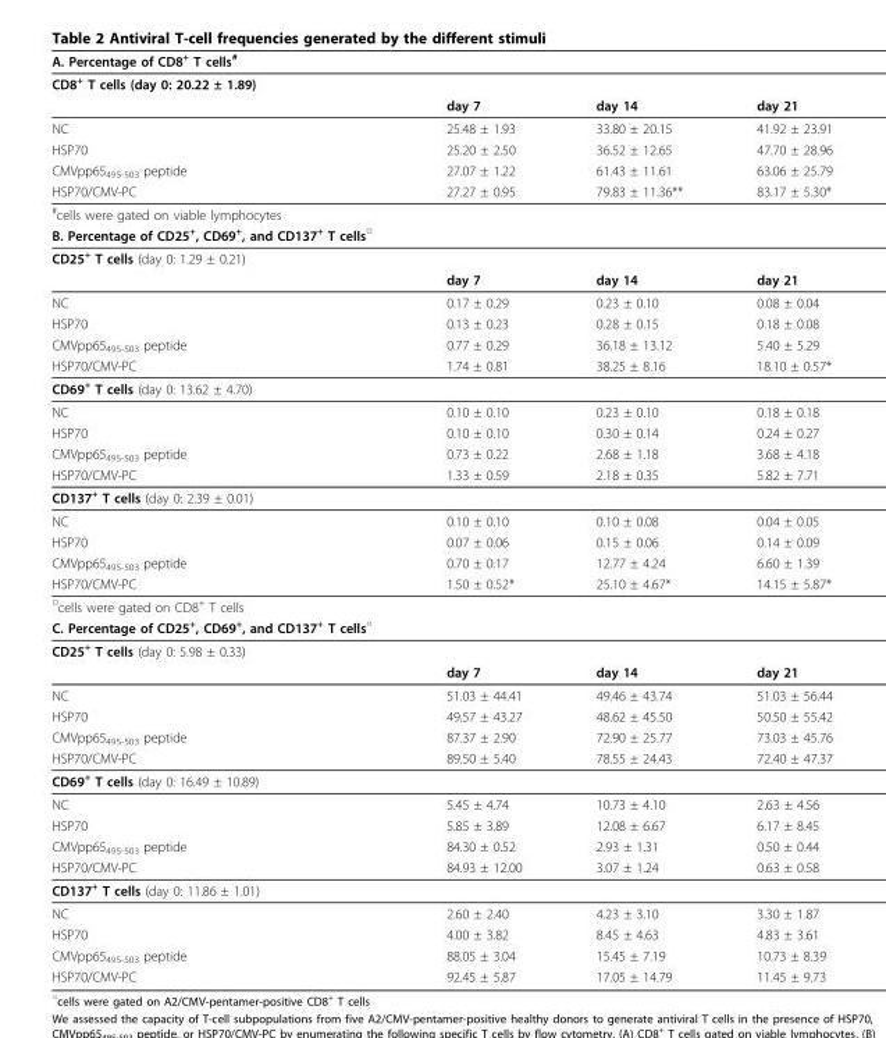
<table><thead><tr><td>A. Percentage of CD8<sup>+</sup> T cells<sup>#</sup></td><td></td><td></td><td></td></tr></thead><tbody><tr><td colspan="4">CD8<sup>+</sup> T cells (day 0: 20.22 ± 1.89)</td></tr><tr><td></td><td>day 7</td><td>day 14</td><td>day 21</td></tr><tr><td>NC</td><td>25.48 ± 1.93</td><td>33.80 ± 20.15</td><td>41.92 ± 23.91</td></tr><tr><td>HSP70</td><td>25.20 ± 2.50</td><td>36.52 ± 12.65</td><td>47.70 ± 28.96</td></tr><tr><td>CMVpp65<sub>495-503</sub> peptide</td><td>27.07 ± 1.22</td><td>61.43 ± 11.61</td><td>63.06 ± 25.79</td></tr><tr><td>HSP70/CMV-PC</td><td>27.27 ± 0.95</td><td>79.83 ± 11.36**</td><td>83.17 ± 5.30*</td></tr><tr><td colspan="4"><sup>#</sup>cells were gated on viable lymphocytes</td></tr><tr><td colspan="4">B. Percentage of CD25<sup>+</sup>, CD69<sup>+</sup>, and CD137<sup>+</sup> T cells<sup>□</sup></td></tr><tr><td colspan="4">CD25<sup>+</sup> T cells (day 0: 1.29 ± 0.21)</td></tr><tr><td></td><td>day 7</td><td>day 14</td><td>day 21</td></tr><tr><td>NC</td><td>0.17 ± 0.29</td><td>0.23 ± 0.10</td><td>0.08 ± 0.04</td></tr><tr><td>HSP70</td><td>0.13 ± 0.23</td><td>0.28 ± 0.15</td><td>0.18 ± 0.08</td></tr><tr><td>CMVpp65<sub>495-503</sub> peptide</td><td>0.77 ± 0.29</td><td>36.18 ± 13.12</td><td>5.40 ± 5.29</td></tr><tr><td>HSP70/CMV-PC</td><td>1.74 ± 0.81</td><td>38.25 ± 8.16</td><td>18.10 ± 0.57*</td></tr><tr><td colspan="4">CD69<sup>+</sup> T cells (day 0: 13.62 ± 4.70)</td></tr><tr><td>NC</td><td>0.10 ± 0.10</td><td>0.23 ± 0.10</td><td>0.18 ± 0.18</td></tr><tr><td>HSP70</td><td>0.10 ± 0.10</td><td>0.30 ± 0.14</td><td>0.24 ± 0.27</td></tr><tr><td>CMVpp65<sub>495-503</sub> peptide</td><td>0.73 ± 0.22</td><td>2.68 ± 1.18</td><td>3.68 ± 4.18</td></tr><tr><td>HSP70/CMV-PC</td><td>1.33 ± 0.59</td><td>2.18 ± 0.35</td><td>5.82 ± 7.71</td></tr><tr><td colspan="4">CD137<sup>+</sup> T cells (day 0: 2.39 ± 0.01)</td></tr><tr><td>NC</td><td>0.10 ± 0.10</td><td>0.10 ± 0.08</td><td>0.04 ± 0.05</td></tr><tr><td>HSP70</td><td>0.07 ± 0.06</td><td>0.15 ± 0.06</td><td>0.14 ± 0.09</td></tr><tr><td>CMVpp65<sub>495-503</sub> peptide</td><td>0.70 ± 0.17</td><td>12.77 ± 4.24</td><td>6.60 ± 1.39</td></tr><tr><td>HSP70/CMV-PC</td><td>1.50 ± 0.52*</td><td>25.10 ± 4.67*</td><td>14.15 ± 5.87*</td></tr><tr><td colspan="4"><sup>□</sup>cells were gated on CD8<sup>+</sup> T cells</td></tr><tr><td colspan="4">C. Percentage of CD25<sup>+</sup>, CD69<sup>+</sup>, and CD137<sup>+</sup> T cells<sup>○</sup></td></tr><tr><td colspan="4">CD25<sup>+</sup> T cells (day 0: 5.98 ± 0.33)</td></tr><tr><td></td><td>day 7</td><td>day 14</td><td>day 21</td></tr><tr><td>NC</td><td>51.03 ± 44.41</td><td>49.46 ± 43.74</td><td>51.03 ± 56.44</td></tr><tr><td>HSP70</td><td>49.57 ± 43.27</td><td>48.62 ± 45.50</td><td>50.50 ± 55.42</td></tr><tr><td>CMVpp65<sub>495-503</sub> peptide</td><td>87.37 ± 2.90</td><td>72.90 ± 25.77</td><td>73.03 ± 45.76</td></tr><tr><td>HSP70/CMV-PC</td><td>89.50 ± 5.40</td><td>78.55 ± 24.43</td><td>72.40 ± 47.37</td></tr><tr><td colspan="4">CD69<sup>+</sup> T cells (day 0: 16.49 ± 10.89)</td></tr><tr><td>NC</td><td>5.45 ± 4.74</td><td>10.73 ± 4.10</td><td>2.63 ± 4.56</td></tr><tr><td>HSP70</td><td>5.85 ± 3.89</td><td>12.08 ± 6.67</td><td>6.17 ± 8.45</td></tr><tr><td>CMVpp65<sub>495-503</sub> peptide</td><td>84.30 ± 0.52</td><td>2.93 ± 1.31</td><td>0.50 ± 0.44</td></tr><tr><td>HSP70/CMV-PC</td><td>84.93 ± 12.00</td><td>3.07 ± 1.24</td><td>0.63 ± 0.58</td></tr><tr><td colspan="4">CD137<sup>+</sup> T cells (day 0: 11.86 ± 1.01)</td></tr><tr><td>NC</td><td>2.60 ± 2.40</td><td>4.23 ± 3.10</td><td>3.30 ± 1.87</td></tr><tr><td>HSP70</td><td>4.00 ± 3.82</td><td>8.45 ± 4.63</td><td>4.83 ± 3.61</td></tr><tr><td>CMVpp65<sub>495-503</sub> peptide</td><td>88.05 ± 3.04</td><td>15.45 ± 7.19</td><td>10.73 ± 8.39</td></tr><tr><td>HSP70/CMV-PC</td><td>92.45 ± 5.87</td><td>17.05 ± 14.79</td><td>11.45 ± 9.73</td></tr></tbody></table>